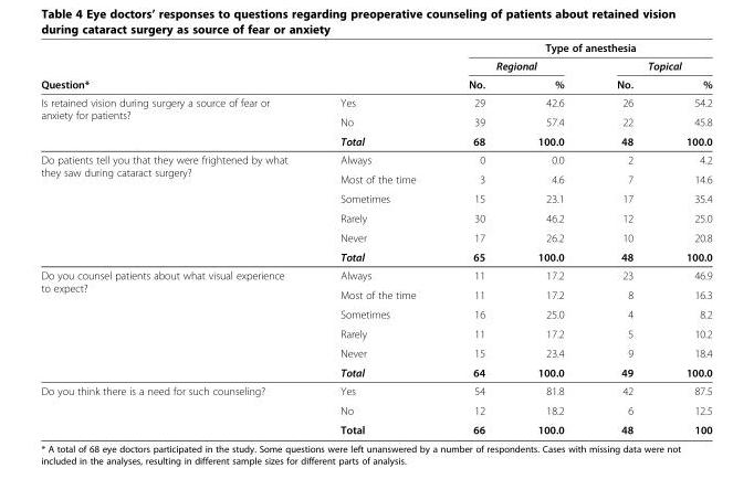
<table><thead><tr><td rowspan="3">Question*</td><td rowspan="3"></td><td colspan="4">Type of anesthesia</td></tr><tr><td colspan="2">Regional</td><td colspan="2">Topical</td></tr><tr><td>No.</td><td>%</td><td>No.</td><td>%</td></tr></thead><tbody><tr><td rowspan="3">Is retained vision during surgery a source of fear or anxiety for patients?</td><td>Yes</td><td>29</td><td>42.6</td><td>26</td><td>54.2</td></tr><tr><td>No</td><td>39</td><td>57.4</td><td>22</td><td>45.8</td></tr><tr><td>Total</td><td>68</td><td>100.0</td><td>48</td><td>100.0</td></tr><tr><td rowspan="6">Do patients tell you that they were frightened by what they saw during cataract surgery?</td><td>Always</td><td>0</td><td>0.0</td><td>2</td><td>4.2</td></tr><tr><td>Most of the time</td><td>3</td><td>4.6</td><td>7</td><td>14.6</td></tr><tr><td>Sometimes</td><td>15</td><td>23.1</td><td>17</td><td>35.4</td></tr><tr><td>Rarely</td><td>30</td><td>46.2</td><td>12</td><td>25.0</td></tr><tr><td>Never</td><td>17</td><td>26.2</td><td>10</td><td>20.8</td></tr><tr><td>Total</td><td>65</td><td>100.0</td><td>48</td><td>100.0</td></tr><tr><td rowspan="6">Do you counsel patients about what visual experience to expect?</td><td>Always</td><td>11</td><td>17.2</td><td>23</td><td>46.9</td></tr><tr><td>Most of the time</td><td>11</td><td>17.2</td><td>8</td><td>16.3</td></tr><tr><td>Sometimes</td><td>16</td><td>25.0</td><td>4</td><td>8.2</td></tr><tr><td>Rarely</td><td>11</td><td>17.2</td><td>5</td><td>10.2</td></tr><tr><td>Never</td><td>15</td><td>23.4</td><td>9</td><td>18.4</td></tr><tr><td>Total</td><td>64</td><td>100.0</td><td>49</td><td>100.0</td></tr><tr><td rowspan="3">Do you think there is a need for such counseling?</td><td>Yes</td><td>54</td><td>81.8</td><td>42</td><td>87.5</td></tr><tr><td>No</td><td>12</td><td>18.2</td><td>6</td><td>12.5</td></tr><tr><td>Total</td><td>66</td><td>100.0</td><td>48</td><td>100</td></tr></tbody></table>